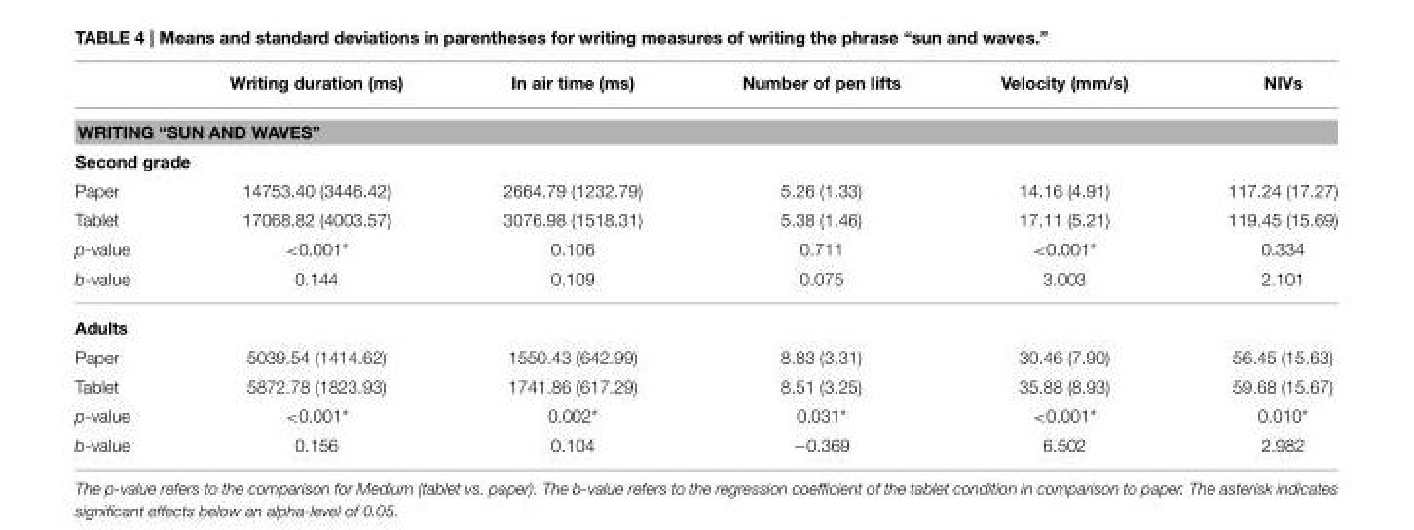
<table><thead><tr><td></td><td>Writing duration (ms)</td><td>In air time (ms)</td><td>Number of pen lifts</td><td>Velocity (mm/s)</td><td>NIVs</td></tr></thead><tbody><tr><td colspan="6">WRITING “SUN AND WAVES”</td></tr><tr><td colspan="6">Second grade</td></tr><tr><td>Paper</td><td>14753.40 (3446.42)</td><td>2664.79 (1232.79)</td><td>5.26 (1.33)</td><td>14.16 (4.91)</td><td>117.24 (17.27)</td></tr><tr><td>Tablet</td><td>17068.82 (4003.57)</td><td>3076.98 (1518.31)</td><td>5.38 (1.46)</td><td>17.11 (5.21)</td><td>119.45 (15.69)</td></tr><tr><td>p-value</td><td>&lt;0.001*</td><td>0.106</td><td>0.711</td><td>&lt;0.001*</td><td>0.334</td></tr><tr><td>b-value</td><td>0.144</td><td>0.109</td><td>0.075</td><td>3.003</td><td>2.101</td></tr><tr><td colspan="6">Adults</td></tr><tr><td>Paper</td><td>5039.54 (1414.62)</td><td>1550.43 (642.99)</td><td>8.83 (3.31)</td><td>30.46 (7.90)</td><td>56.45 (15.63)</td></tr><tr><td>Tablet</td><td>5872.78 (1823.93)</td><td>1741.86 (617.29)</td><td>8.51 (3.25)</td><td>35.88 (8.93)</td><td>59.68 (15.67)</td></tr><tr><td>p-value</td><td>&lt;0.001*</td><td>0.002*</td><td>0.031*</td><td>&lt;0.001*</td><td>0.010*</td></tr><tr><td>b-value</td><td>0.156</td><td>0.104</td><td>−0.369</td><td>6.502</td><td>2.982</td></tr></tbody></table>